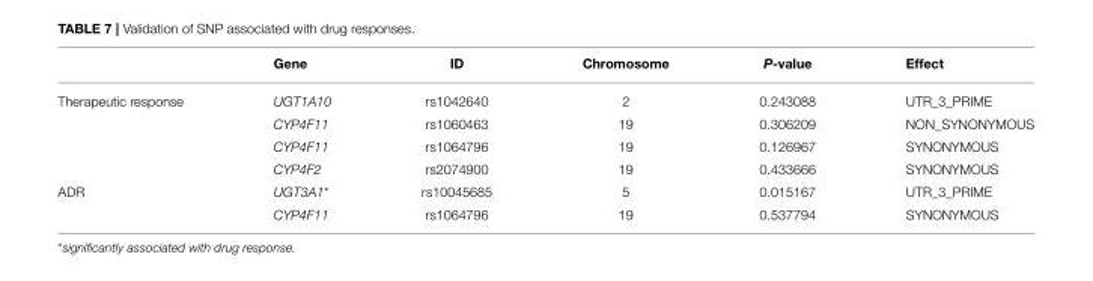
<table><thead><tr><td></td><td>Gene</td><td>ID</td><td>Chromosome</td><td>P-value</td><td>Effect</td></tr></thead><tbody><tr><td rowspan="4">Therapeutic response</td><td>UGT1A10</td><td>rs1042640</td><td>2</td><td>0.243088</td><td>UTR_3_PRIME</td></tr><tr><td>CYP4F11</td><td>rs1060463</td><td>19</td><td>0.306209</td><td>NON_SYNONYMOUS</td></tr><tr><td>CYP4F11</td><td>rs1064796</td><td>19</td><td>0.126967</td><td>SYNONYMOUS</td></tr><tr><td>CYP4F2</td><td>rs2074900</td><td>19</td><td>0.433666</td><td>SYNONYMOUS</td></tr><tr><td rowspan="2">ADR</td><td>UGT3A1*</td><td>rs10045685</td><td>5</td><td>0.015167</td><td>UTR_3_PRIME</td></tr><tr><td>CYP4F11</td><td>rs1064796</td><td>19</td><td>0.537794</td><td>SYNONYMOUS</td></tr></tbody></table>